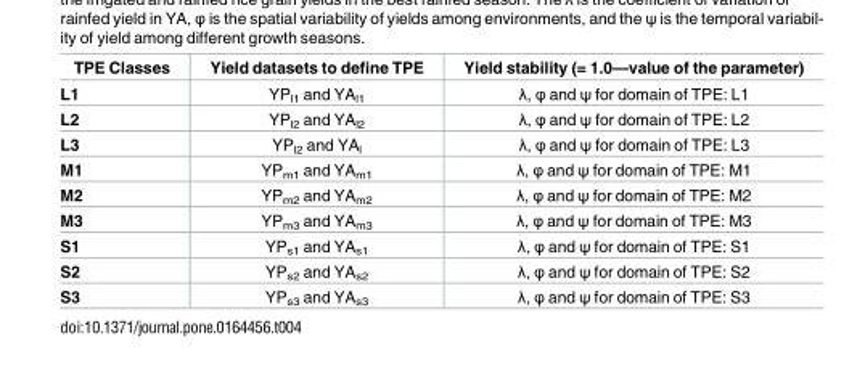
<table><thead><tr><td>TPE Classes</td><td>Yield datasets to define TPE</td><td>Yield stability (= 1.0—value of the parameter)</td></tr></thead><tbody><tr><td>L1</td><td>YP<sub>l1</sub> and YA<sub>l1</sub></td><td>λ, φ and ψ for domain of TPE: L1</td></tr><tr><td>L2</td><td>YP<sub>l2</sub> and YA<sub>l2</sub></td><td>λ, φ and ψ for domain of TPE: L2</td></tr><tr><td>L3</td><td>YP<sub>l2</sub> and YA<sub>l</sub></td><td>λ, φ and ψ for domain of TPE: L3</td></tr><tr><td>M1</td><td>YP<sub>m1</sub> and YA<sub>m1</sub></td><td>λ, φ and ψ for domain of TPE: M1</td></tr><tr><td>M2</td><td>YP<sub>m2</sub> and YA<sub>m2</sub></td><td>λ, φ and ψ for domain of TPE: M2</td></tr><tr><td>M3</td><td>YP<sub>m3</sub> and YA<sub>m3</sub></td><td>λ, φ and ψ for domain of TPE: M3</td></tr><tr><td>S1</td><td>YP<sub>s1</sub> and YA<sub>s1</sub></td><td>λ, φ and ψ for domain of TPE: S1</td></tr><tr><td>S2</td><td>YP<sub>s2</sub> and YA<sub>s2</sub></td><td>λ, φ and ψ for domain of TPE: S2</td></tr><tr><td>S3</td><td>YP<sub>s3</sub> and YA<sub>s3</sub></td><td>λ, φ and ψ for domain of TPE: S3</td></tr></tbody></table>